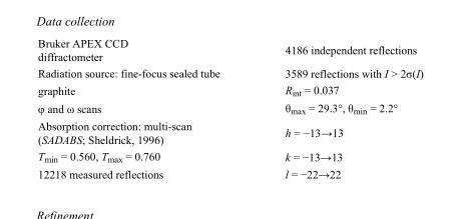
<table><tbody><tr><td>Bruker APEX CCD diffractometer</td><td>4186 independent reflections</td></tr><tr><td>Radiation source: fine-focus sealed tube</td><td>3589 reflections with I &gt; 2σ(I)</td></tr><tr><td>graphite</td><td>R<sub>int</sub> = 0.037</td></tr><tr><td>φ and ω scans</td><td>θ<sub>max</sub> = 29.3°, θ<sub>min</sub> = 2.2°</td></tr><tr><td>Absorption correction: multi-scan (SADABS; Sheldrick, 1996)</td><td>h = −13→13</td></tr><tr><td>T<sub>min</sub> = 0.560, T<sub>max</sub> = 0.760</td><td>k = −13→13</td></tr><tr><td>12218 measured reflections</td><td>l = −22→22</td></tr></tbody></table>